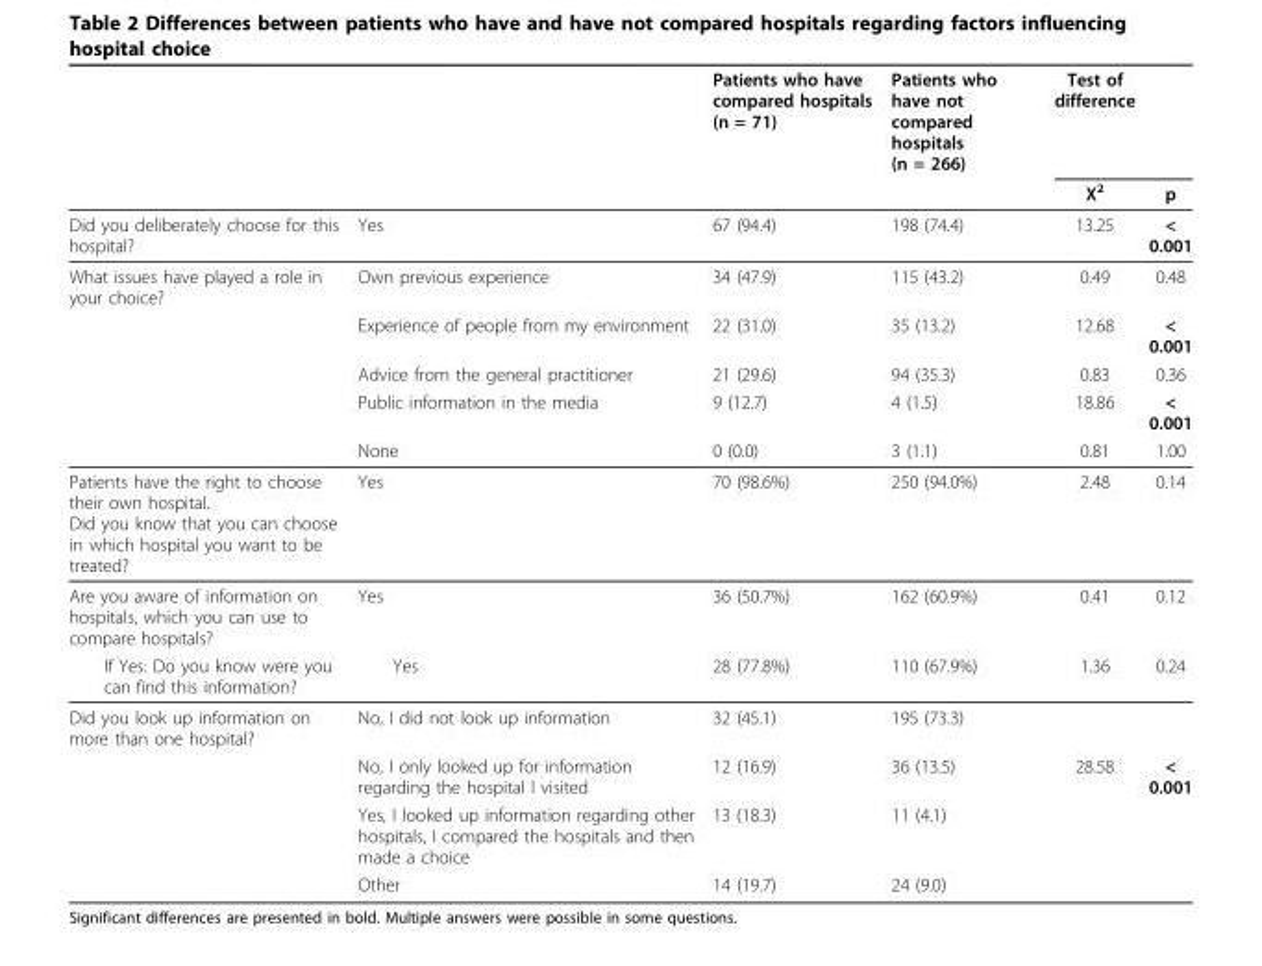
<table><thead><tr><td rowspan="2"></td><td rowspan="2"></td><td rowspan="2">Patients who have compared hospitals (n = 71)</td><td rowspan="2">Patients who have not compared hospitals (n = 266)</td><td rowspan="2">Test of difference X<sup>2</sup></td><td rowspan="2">p</td></tr><tr></tr></thead><tbody><tr><td>Did you deliberately choose for this hospital?</td><td>Yes</td><td>67 (94.4)</td><td>198 (74.4)</td><td>13.25</td><td>&lt; 0.001</td></tr><tr><td rowspan="5">What issues have played a role in your choice?</td><td>Own previous experience</td><td>34 (47.9)</td><td>115 (43.2)</td><td>0.49</td><td>0.48</td></tr><tr><td>Experience of people from my environment</td><td>22 (31.0)</td><td>35 (13.2)</td><td>12.68</td><td>&lt; 0.001</td></tr><tr><td>Advice from the general practitioner</td><td>21 (29.6)</td><td>94 (35.3)</td><td>0.83</td><td>0.36</td></tr><tr><td>Public information in the media</td><td>9 (12.7)</td><td>4 (1.5)</td><td>18.86</td><td>&lt; 0.001</td></tr><tr><td>None</td><td>0 (0.0)</td><td>3 (1.1)</td><td>0.81</td><td>1.00</td></tr><tr><td>Patients have the right to choose their own hospital. Did you know that you can choose in which hospital you want to be treated?</td><td>Yes</td><td>70 (98.6%)</td><td>250 (94.0%)</td><td>2.48</td><td>0.14</td></tr><tr><td>Are you aware of information on hospitals, which you can use to compare hospitals?</td><td>Yes</td><td>36 (50.7%)</td><td>162 (60.9%)</td><td>0.41</td><td>0.12</td></tr><tr><td>If Yes: Do you know were you can find this information?</td><td>Yes</td><td>28 (77.8%)</td><td>110 (67.9%)</td><td>1.36</td><td>0.24</td></tr><tr><td rowspan="4">Did you look up information on more than one hospital?</td><td>No, I did not look up information</td><td>32 (45.1)</td><td>195 (73.3)</td><td></td><td></td></tr><tr><td>No, I only looked up for information regarding the hospital I visited</td><td>12 (16.9)</td><td>36 (13.5)</td><td>28.58</td><td>&lt; 0.001</td></tr><tr><td>Yes, I looked up information regarding other hospitals, I compared the hospitals and then made a choice</td><td>13 (18.3)</td><td>11 (4.1)</td><td></td><td></td></tr><tr><td>Other</td><td>14 (19.7)</td><td>24 (9.0)</td><td></td><td></td></tr></tbody></table>